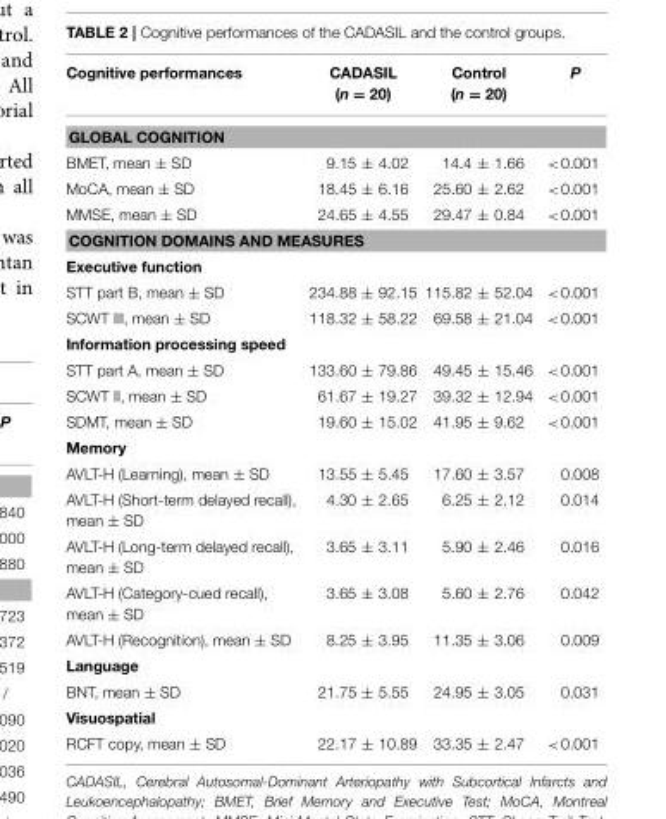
<table><thead><tr><td>Cognitive performances</td><td>CADASIL (n = 20)</td><td>Control (n = 20)</td><td>P</td></tr></thead><tbody><tr><td colspan="4">GLOBAL COGNITION</td></tr><tr><td>BMET, mean ± SD</td><td>9.15 ± 4.02</td><td>14.4 ± 1.66</td><td>&lt;0.001</td></tr><tr><td>MoCA, mean ± SD</td><td>18.45 ± 6.16</td><td>25.60 ± 2.62</td><td>&lt;0.001</td></tr><tr><td>MMSE, mean ± SD</td><td>24.65 ± 4.55</td><td>29.47 ± 0.84</td><td>&lt;0.001</td></tr><tr><td colspan="4">COGNITION DOMAINS AND MEASURES</td></tr><tr><td colspan="4">Executive function</td></tr><tr><td>STT part B, mean ± SD</td><td>234.88 ± 92.15</td><td>115.82 ± 52.04</td><td>&lt;0.001</td></tr><tr><td>SCWT III, mean ± SD</td><td>118.32 ± 58.22</td><td>69.58 ± 21.04</td><td>&lt;0.001</td></tr><tr><td colspan="4">Information processing speed</td></tr><tr><td>STT part A, mean ± SD</td><td>133.60 ± 79.86</td><td>49.45 ± 15.46</td><td>&lt;0.001</td></tr><tr><td>SCWT II, mean ± SD</td><td>61.67 ± 19.27</td><td>39.32 ± 12.94</td><td>&lt;0.001</td></tr><tr><td>SDMT, mean ± SD</td><td>19.60 ± 15.02</td><td>41.95 ± 9.62</td><td>&lt;0.001</td></tr><tr><td colspan="4">Memory</td></tr><tr><td>AVLT-H (Learning), mean ± SD</td><td>13.55 ± 5.45</td><td>17.60 ± 3.57</td><td>0.008</td></tr><tr><td>AVLT-H (Short-term delayed recall), mean ± SD</td><td>4.30 ± 2.65</td><td>6.25 ± 2.12</td><td>0.014</td></tr><tr><td>AVLT-H (Long-term delayed recall), mean ± SD</td><td>3.65 ± 3.11</td><td>5.90 ± 2.46</td><td>0.016</td></tr><tr><td>AVLT-H (Category-cued recall), mean ± SD</td><td>3.65 ± 3.08</td><td>5.60 ± 2.76</td><td>0.042</td></tr><tr><td>AVLT-H (Recognition), mean ± SD</td><td>8.25 ± 3.95</td><td>11.35 ± 3.06</td><td>0.009</td></tr><tr><td colspan="4">Language</td></tr><tr><td>BNT, mean ± SD</td><td>21.75 ± 5.55</td><td>24.95 ± 3.05</td><td>0.031</td></tr><tr><td colspan="4">Visuospatial</td></tr><tr><td>RCFT copy, mean ± SD</td><td>22.17 ± 10.89</td><td>33.35 ± 2.47</td><td>&lt;0.001</td></tr></tbody></table>